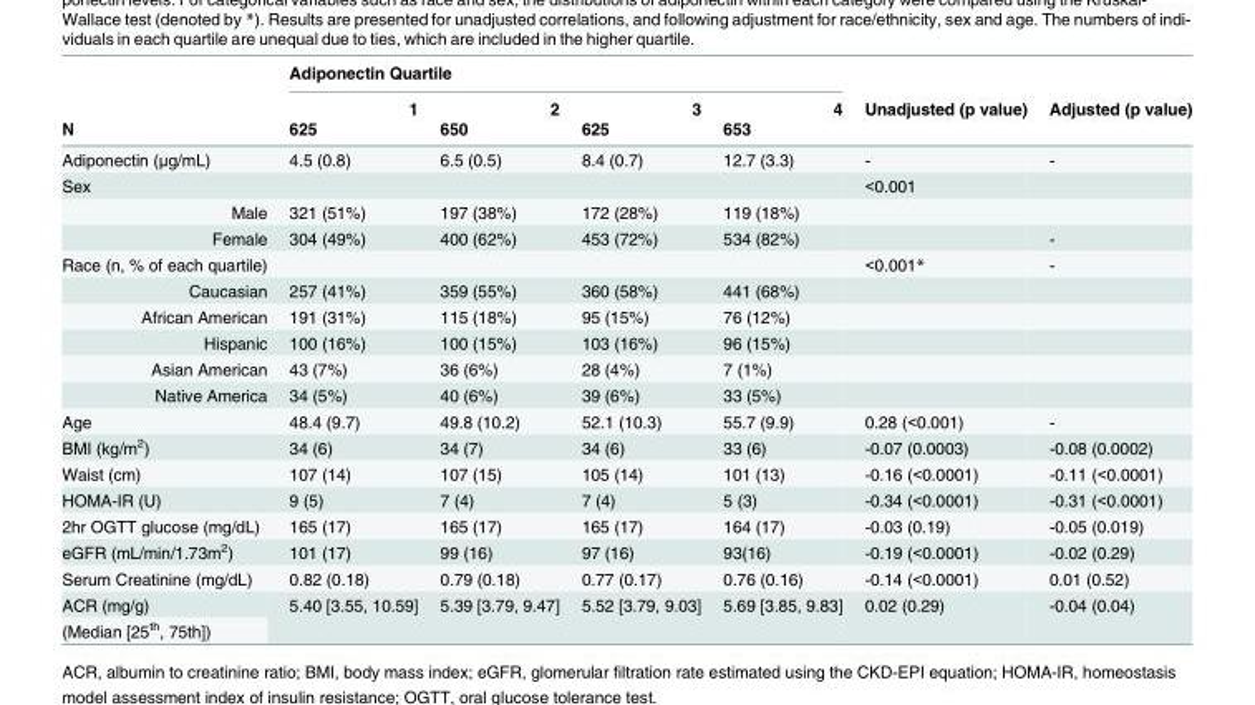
<table><thead><tr><td rowspan="3">N</td><td colspan="4">Adiponectin Quartile</td><td rowspan="3">Unadjusted (p value)</td><td rowspan="3">Adjusted (p value)</td></tr><tr><td rowspan="2">1 625</td><td rowspan="2">2 650</td><td rowspan="2">3 625</td><td rowspan="2">4 653</td></tr><tr></tr></thead><tbody><tr><td>Adiponectin (μg/mL)</td><td>4.5 (0.8)</td><td>6.5 (0.5)</td><td>8.4 (0.7)</td><td>12.7 (3.3)</td><td>-</td><td>-</td></tr><tr><td>Sex</td><td></td><td></td><td></td><td></td><td>&lt;0.001</td><td></td></tr><tr><td>Male</td><td>321 (51%)</td><td>197 (38%)</td><td>172 (28%)</td><td>119 (18%)</td><td></td><td></td></tr><tr><td>Female</td><td>304 (49%)</td><td>400 (62%)</td><td>453 (72%)</td><td>534 (82%)</td><td></td><td>-</td></tr><tr><td>Race (n, % of each quartile)</td><td></td><td></td><td></td><td></td><td>&lt;0.001*</td><td>-</td></tr><tr><td>Caucasian</td><td>257 (41%)</td><td>359 (55%)</td><td>360 (58%)</td><td>441 (68%)</td><td></td><td></td></tr><tr><td>African American</td><td>191 (31%)</td><td>115 (18%)</td><td>95 (15%)</td><td>76 (12%)</td><td></td><td></td></tr><tr><td>Hispanic</td><td>100 (16%)</td><td>100 (15%)</td><td>103 (16%)</td><td>96 (15%)</td><td></td><td></td></tr><tr><td>Asian American</td><td>43 (7%)</td><td>36 (6%)</td><td>28 (4%)</td><td>7 (1%)</td><td></td><td></td></tr><tr><td>Native America</td><td>34 (5%)</td><td>40 (6%)</td><td>39 (6%)</td><td>33 (5%)</td><td></td><td></td></tr><tr><td>Age</td><td>48.4 (9.7)</td><td>49.8 (10.2)</td><td>52.1 (10.3)</td><td>55.7 (9.9)</td><td>0.28 (&lt;0.001)</td><td>-</td></tr><tr><td>BMI (kg/m<sup>2</sup>)</td><td>34 (6)</td><td>34 (7)</td><td>34 (6)</td><td>33 (6)</td><td>-0.07 (0.0003)</td><td>-0.08 (0.0002)</td></tr><tr><td>Waist (cm)</td><td>107 (14)</td><td>107 (15)</td><td>105 (14)</td><td>101 (13)</td><td>-0.16 (&lt;0.0001)</td><td>-0.11 (&lt;0.0001)</td></tr><tr><td>HOMA-IR (U)</td><td>9 (5)</td><td>7 (4)</td><td>7 (4)</td><td>5 (3)</td><td>-0.34 (&lt;0.0001)</td><td>-0.31 (&lt;0.0001)</td></tr><tr><td>2hr OGTT glucose (mg/dL)</td><td>165 (17)</td><td>165 (17)</td><td>165 (17)</td><td>164 (17)</td><td>-0.03 (0.19)</td><td>-0.05 (0.019)</td></tr><tr><td>eGFR (mL/min/1.73m<sup>2</sup>)</td><td>101 (17)</td><td>99 (16)</td><td>97 (16)</td><td>93(16)</td><td>-0.19 (&lt;0.0001)</td><td>-0.02 (0.29)</td></tr><tr><td>Serum Creatinine (mg/dL)</td><td>0.82 (0.18)</td><td>0.79 (0.18)</td><td>0.77 (0.17)</td><td>0.76 (0.16)</td><td>-0.14 (&lt;0.0001)</td><td>0.01 (0.52)</td></tr><tr><td>ACR (mg/g)</td><td rowspan="2">5.40 [3.55, 10.59]</td><td rowspan="2">5.39 [3.79, 9.47]</td><td rowspan="2">5.52 [3.79, 9.03]</td><td rowspan="2">5.69 [3.85, 9.83]</td><td rowspan="2">0.02 (0.29)</td><td rowspan="2">-0.04 (0.04)</td></tr><tr><td>(Median [25<sup>th</sup>, 75th])</td></tr></tbody></table>